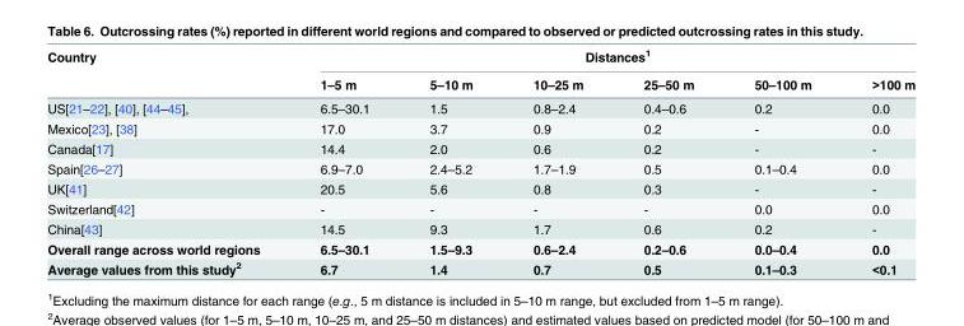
<table><thead><tr><td rowspan="2">Country</td><td colspan="6">Distances<sup>1</sup></td></tr><tr><td>1–5 m</td><td>5–10 m</td><td>10–25 m</td><td>25–50 m</td><td>50–100 m</td><td>&gt;100 m</td></tr></thead><tbody><tr><td>US[21–22], [40], [44–45],</td><td>6.5–30.1</td><td>1.5</td><td>0.8–2.4</td><td>0.4–0.6</td><td>0.2</td><td>0.0</td></tr><tr><td>Mexico[23], [38]</td><td>17.0</td><td>3.7</td><td>0.9</td><td>0.2</td><td>-</td><td>0.0</td></tr><tr><td>Canada[17]</td><td>14.4</td><td>2.0</td><td>0.6</td><td>0.2</td><td>-</td><td>-</td></tr><tr><td>Spain[26–27]</td><td>6.9–7.0</td><td>2.4–5.2</td><td>1.7–1.9</td><td>0.5</td><td>0.1–0.4</td><td>0.0</td></tr><tr><td>UK[41]</td><td>20.5</td><td>5.6</td><td>0.8</td><td>0.3</td><td>-</td><td>-</td></tr><tr><td>Switzerland[42]</td><td>-</td><td>-</td><td>-</td><td>-</td><td>0.0</td><td>0.0</td></tr><tr><td>China[43]</td><td>14.5</td><td>9.3</td><td>1.7</td><td>0.6</td><td>0.2</td><td>-</td></tr><tr><td>Overall range across world regions</td><td>6.5–30.1</td><td>1.5–9.3</td><td>0.6–2.4</td><td>0.2–0.6</td><td>0.0–0.4</td><td>0.0</td></tr><tr><td>Average values from this study<sup>2</sup></td><td>6.7</td><td>1.4</td><td>0.7</td><td>0.5</td><td>0.1–0.3</td><td>&lt;0.1</td></tr></tbody></table>